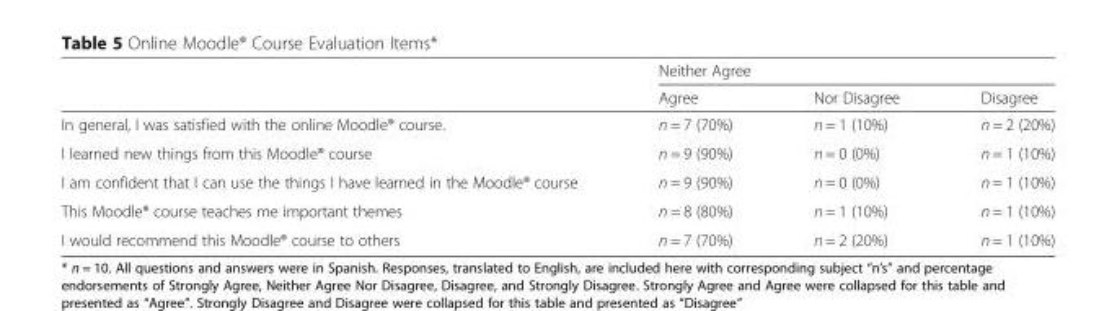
<table><thead><tr><td rowspan="2"></td><td colspan="3">Neither Agree</td></tr><tr><td>Agree</td><td>Nor Disagree</td><td>Disagree</td></tr></thead><tbody><tr><td>In general, I was satisfied with the online Moodle® course.</td><td>n = 7 (70%)</td><td>n = 1 (10%)</td><td>n = 2 (20%)</td></tr><tr><td>I learned new things from this Moodle® course</td><td>n = 9 (90%)</td><td>n = 0 (0%)</td><td>n = 1 (10%)</td></tr><tr><td>I am confident that I can use the things I have learned in the Moodle® course</td><td>n = 9 (90%)</td><td>n = 0 (0%)</td><td>n = 1 (10%)</td></tr><tr><td>This Moodle® course teaches me important themes</td><td>n = 8 (80%)</td><td>n = 1 (10%)</td><td>n = 1 (10%)</td></tr><tr><td>I would recommend this Moodle® course to others</td><td>n = 7 (70%)</td><td>n = 2 (20%)</td><td>n = 1 (10%)</td></tr></tbody></table>